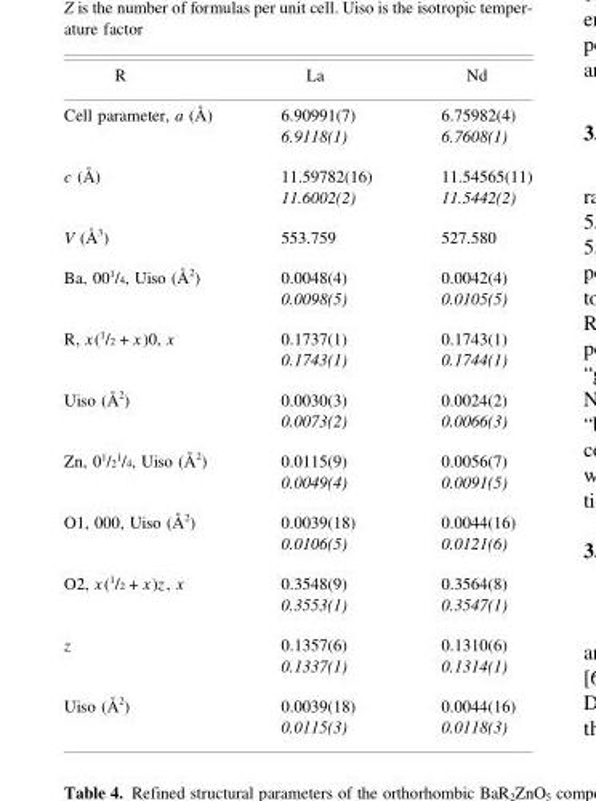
<table><thead><tr><td>R</td><td>La</td><td>Nd</td></tr></thead><tbody><tr><td rowspan="2">Cell parameter, a (Å)</td><td>6.90991(7)</td><td>6.75982(4)</td></tr><tr><td>6.9118(1)</td><td>6.7608(1)</td></tr><tr><td rowspan="2">c (Å)</td><td>11.59782(16)</td><td>11.54565(11)</td></tr><tr><td>11.6002(2)</td><td>11.5442(2)</td></tr><tr><td>V (Å<sup>3</sup>)</td><td>553.759</td><td>527.580</td></tr><tr><td rowspan="2">Ba, 001/4, Uiso (Å2)</td><td>0.0048(4)</td><td>0.0042(4)</td></tr><tr><td>0.0098(5)</td><td>0.0105(5)</td></tr><tr><td rowspan="2">R, x(1/2 + x)0, x</td><td>0.1737(1)</td><td>0.1743(1)</td></tr><tr><td>0.1743(1)</td><td>0.1744(1)</td></tr><tr><td rowspan="2">Uiso (Å<sup>2</sup>)</td><td>0.0030(3)</td><td>0.0024(2)</td></tr><tr><td>0.0073(2)</td><td>0.0066(3)</td></tr><tr><td rowspan="2">Zn, 01/21/4, Uiso (Å2)</td><td>0.0115(9)</td><td>0.0056(7)</td></tr><tr><td>0.0049(4)</td><td>0.0091(5)</td></tr><tr><td rowspan="2">O1, 000, Uiso (Å<sup>2</sup>)</td><td>0.0039(18)</td><td>0.0044(16)</td></tr><tr><td>0.0106(5)</td><td>0.0121(6)</td></tr><tr><td rowspan="2">O2, x(1/2 + x)z, x</td><td>0.3548(9)</td><td>0.3564(8)</td></tr><tr><td>0.3553(1)</td><td>0.3547(1)</td></tr><tr><td rowspan="2">z</td><td>0.1357(6)</td><td>0.1310(6)</td></tr><tr><td>0.1337(1)</td><td>0.1314(1)</td></tr><tr><td rowspan="2">Uiso (Å<sup>2</sup>)</td><td>0.0039(18)</td><td>0.0044(16)</td></tr><tr><td>0.0115(3)</td><td>0.0118(3)</td></tr></tbody></table>